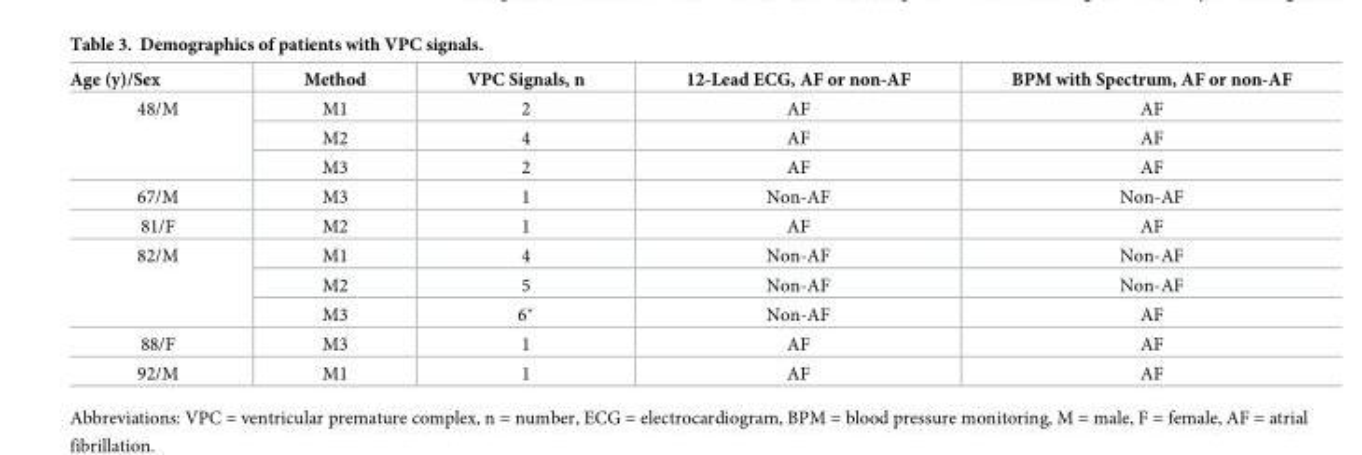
<table><thead><tr><td>Age (y)/Sex</td><td>Method</td><td>VPC Signals, n</td><td>12-Lead ECG, AF or non-AF</td><td>BPM with Spectrum, AF or non-AF</td></tr></thead><tbody><tr><td rowspan="3">48/M</td><td>M1</td><td>2</td><td>AF</td><td>AF</td></tr><tr><td>M2</td><td>4</td><td>AF</td><td>AF</td></tr><tr><td>M3</td><td>2</td><td>AF</td><td>AF</td></tr><tr><td>67/M</td><td>M3</td><td>1</td><td>Non-AF</td><td>Non-AF</td></tr><tr><td>81/F</td><td>M2</td><td>1</td><td>AF</td><td>AF</td></tr><tr><td rowspan="3">82/M</td><td>M1</td><td>4</td><td>Non-AF</td><td>Non-AF</td></tr><tr><td>M2</td><td>5</td><td>Non-AF</td><td>Non-AF</td></tr><tr><td>M3</td><td>6*</td><td>Non-AF</td><td>AF</td></tr><tr><td>88/F</td><td>M3</td><td>1</td><td>AF</td><td>AF</td></tr><tr><td>92/M</td><td>M1</td><td>1</td><td>AF</td><td>AF</td></tr></tbody></table>